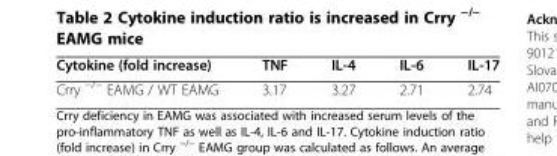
<table><thead><tr><td>Cytokine (fold increase)</td><td>TNF</td><td>IL-4</td><td>IL-6</td><td>IL-17</td></tr></thead><tbody><tr><td>Crry <sup>−/−</sup> EAMG / WT EAMG</td><td>3.17</td><td>3.27</td><td>2.71</td><td>2.74</td></tr></tbody></table>